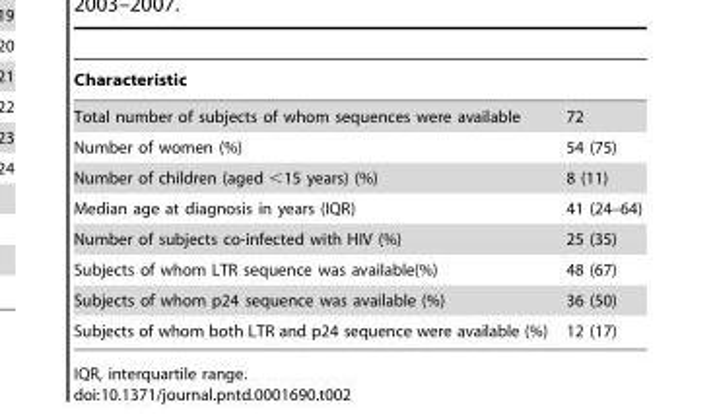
<table><thead><tr><td>Characteristic</td><td></td></tr></thead><tbody><tr><td>Total number of subjects of whom sequences were available</td><td>72</td></tr><tr><td>Number of women (%)</td><td>54 (75)</td></tr><tr><td>Number of children (aged &lt;15 years) (%)</td><td>8 (11)</td></tr><tr><td>Median age at diagnosis in years (IQR)</td><td>41 (24–64)</td></tr><tr><td>Number of subjects co-infected with HIV (%)</td><td>25 (35)</td></tr><tr><td>Subjects of whom LTR sequence was available(%)</td><td>48 (67)</td></tr><tr><td>Subjects of whom p24 sequence was available (%)</td><td>36 (50)</td></tr><tr><td>Subjects of whom both LTR and p24 sequence were available (%)</td><td>12 (17)</td></tr></tbody></table>